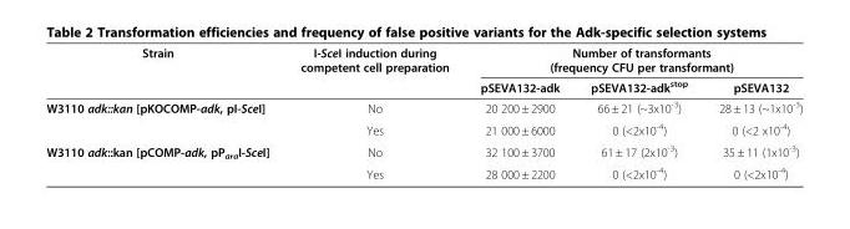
<table><thead><tr><td rowspan="2">Strain</td><td rowspan="2">I-SceI induction during competent cell preparation</td><td colspan="3">Number of transformants (frequency CFU per transformant)</td></tr><tr><td>pSEVA132-adk</td><td>pSEVA132-adk<sup>stop</sup></td><td>pSEVA132</td></tr></thead><tbody><tr><td rowspan="2">W3110 adk::kan [pKOCOMP-adk, pI-SceI]</td><td>No</td><td>20 200 ± 2900</td><td>66 ± 21 (~3x10<sup>-3</sup>)</td><td>28 ± 13 (~1x10<sup>-3</sup>)</td></tr><tr><td>Yes</td><td>21 000 ± 6000</td><td>0 (&lt;2x10<sup>-4</sup>)</td><td>0 (&lt;2 x10<sup>-4</sup>)</td></tr><tr><td rowspan="2">W3110 adk::kan [pCOMP-adk, pP<sub>ara</sub>I-SceI]</td><td>No</td><td>32 100 ± 3700</td><td>61 ± 17 (2x10<sup>-3</sup>)</td><td>35 ± 11 (1x10<sup>-3</sup>)</td></tr><tr><td>Yes</td><td>28 000 ± 2200</td><td>0 (&lt;2x10<sup>-4</sup>)</td><td>0 (&lt;2x10<sup>-4</sup>)</td></tr></tbody></table>